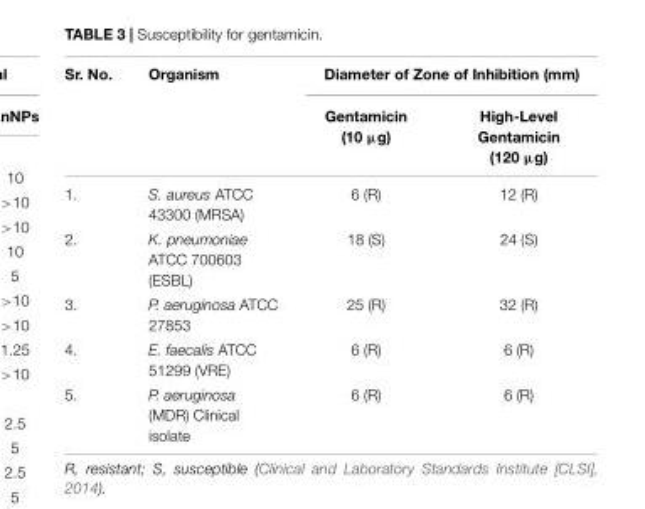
<table><thead><tr><td rowspan="2">Sr. No.</td><td rowspan="2">Organism</td><td colspan="2">Diameter of Zone of Inhibition (mm)</td></tr><tr><td>Gentamicin (10 µg)</td><td>High-Level Gentamicin (120 µg)</td></tr></thead><tbody><tr><td>1.</td><td>S. aureus ATCC 43300 (MRSA)</td><td>6 (R)</td><td>12 (R)</td></tr><tr><td>2.</td><td>K. pneumoniae ATCC 700603 (ESBL)</td><td>18 (S)</td><td>24 (S)</td></tr><tr><td>3.</td><td>P. aeruginosa ATCC 27853</td><td>25 (R)</td><td>32 (R)</td></tr><tr><td>4.</td><td>E. faecalis ATCC 51299 (VRE)</td><td>6 (R)</td><td>6 (R)</td></tr><tr><td>5.</td><td>P. aeruginosa (MDR) Clinical isolate</td><td>6 (R)</td><td>6 (R)</td></tr></tbody></table>